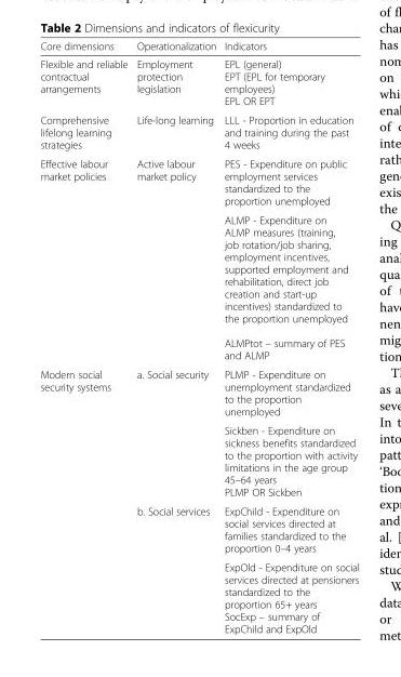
<table><thead><tr><td>Core dimensions</td><td>Operationalization</td><td>Indicators</td></tr></thead><tbody><tr><td>Flexible and reliable contractual arrangements</td><td>Employment protection legislation</td><td>EPL (general) EPT (EPL for temporary employees) EPL OR EPT</td></tr><tr><td>Comprehensive lifelong learning strategies</td><td>Life-long learning</td><td>LLL - Proportion in education and training during the past 4 weeks</td></tr><tr><td rowspan="2">Effective labour market policies</td><td rowspan="2">Active labour market policy</td><td>PES - Expenditure on public employment services standardized to the proportion unemployed</td></tr><tr><td>ALMP - Expenditure on ALMP measures (training, job rotation/job sharing, employment incentives, supported employment and rehabilitation, direct job creation and start-up incentives) standardized to the proportion unemployed ALMPtot – summary of PES and ALMP</td></tr><tr><td rowspan="4">Modern social security systems</td><td rowspan="2">a. Social security</td><td>PLMP - Expenditure on unemployment standardized to the proportion unemployed</td></tr><tr><td>Sickben - Expenditure on sickness benefits standardized to the proportion with activity limitations in the age group 45–64 years PLMP OR Sickben</td></tr><tr><td rowspan="2">b. Social services</td><td>ExpChild - Expenditure on social services directed at families standardized to the proportion 0–4 years</td></tr><tr><td>ExpOld - Expenditure on social services directed at pensioners standardized to the proportion 65+ years SocExp – summary of ExpChild and ExpOld</td></tr></tbody></table>